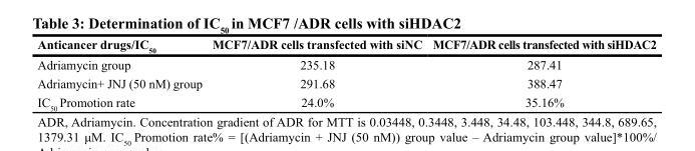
<table><thead><tr><td>Anticancer drugs/IC<sub>50</sub></td><td>MCF7/ADR cells transfected with siNC</td><td>MCF7/ADR cells transfected with siHDAC2</td></tr></thead><tbody><tr><td>Adriamycin group</td><td>235.18</td><td>287.41</td></tr><tr><td>Adriamycin+ JNJ (50 nM) group</td><td>291.68</td><td>388.47</td></tr><tr><td>IC<sub>50</sub> Promotion rate</td><td>24.0%</td><td>35.16%</td></tr></tbody></table>